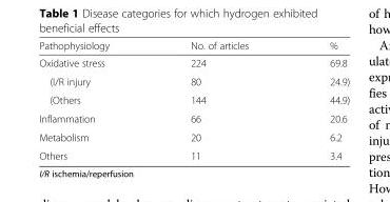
<table><thead><tr><td>Pathophysiology</td><td>No. of articles</td><td>%</td></tr></thead><tbody><tr><td>Oxidative stress</td><td>224</td><td>69.8</td></tr><tr><td>(I/R injury</td><td>80</td><td>24.9)</td></tr><tr><td>(Others</td><td>144</td><td>44.9)</td></tr><tr><td>Inflammation</td><td>66</td><td>20.6</td></tr><tr><td>Metabolism</td><td>20</td><td>6.2</td></tr><tr><td>Others</td><td>11</td><td>3.4</td></tr></tbody></table>